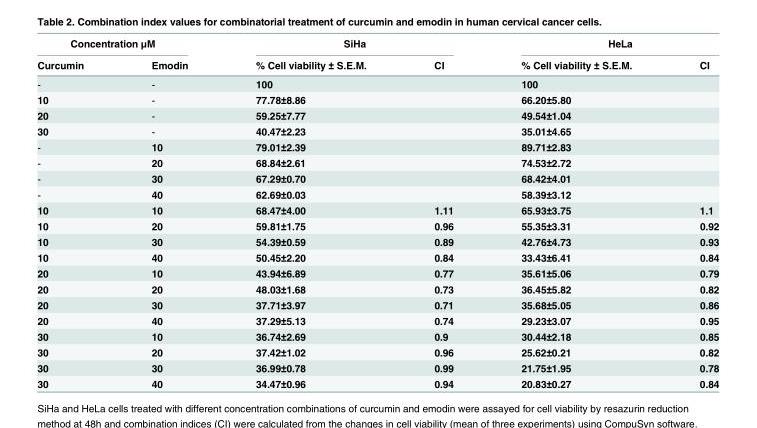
<table><thead><tr><td colspan="2">Concentration μM</td><td colspan="2">SiHa</td><td colspan="2">HeLa</td></tr><tr><td>Curcumin</td><td>Emodin</td><td>% Cell viability ± S.E.M.</td><td>CI</td><td>% Cell viability ± S.E.M.</td><td>CI</td></tr></thead><tbody><tr><td>-</td><td>-</td><td>100</td><td></td><td>100</td><td></td></tr><tr><td>10</td><td>-</td><td>77.78±8.86</td><td></td><td>66.20±5.80</td><td></td></tr><tr><td>20</td><td>-</td><td>59.25±7.77</td><td></td><td>49.54±1.04</td><td></td></tr><tr><td>30</td><td>-</td><td>40.47±2.23</td><td></td><td>35.01±4.65</td><td></td></tr><tr><td>-</td><td>10</td><td>79.01±2.39</td><td></td><td>89.71±2.83</td><td></td></tr><tr><td>-</td><td>20</td><td>68.84±2.61</td><td></td><td>74.53±2.72</td><td></td></tr><tr><td>-</td><td>30</td><td>67.29±0.70</td><td></td><td>68.42±4.01</td><td></td></tr><tr><td>-</td><td>40</td><td>62.69±0.03</td><td></td><td>58.39±3.12</td><td></td></tr><tr><td>10</td><td>10</td><td>68.47±4.00</td><td>1.11</td><td>65.93±3.75</td><td>1.1</td></tr><tr><td>10</td><td>20</td><td>59.81±1.75</td><td>0.96</td><td>55.35±3.31</td><td>0.92</td></tr><tr><td>10</td><td>30</td><td>54.39±0.59</td><td>0.89</td><td>42.76±4.73</td><td>0.93</td></tr><tr><td>10</td><td>40</td><td>50.45±2.20</td><td>0.84</td><td>33.43±6.41</td><td>0.84</td></tr><tr><td>20</td><td>10</td><td>43.94±6.89</td><td>0.77</td><td>35.61±5.06</td><td>0.79</td></tr><tr><td>20</td><td>20</td><td>48.03±1.68</td><td>0.73</td><td>36.45±5.82</td><td>0.82</td></tr><tr><td>20</td><td>30</td><td>37.71±3.97</td><td>0.71</td><td>35.68±5.05</td><td>0.86</td></tr><tr><td>20</td><td>40</td><td>37.29±5.13</td><td>0.74</td><td>29.23±3.07</td><td>0.95</td></tr><tr><td>30</td><td>10</td><td>36.74±2.69</td><td>0.9</td><td>30.44±2.18</td><td>0.85</td></tr><tr><td>30</td><td>20</td><td>37.42±1.02</td><td>0.96</td><td>25.62±0.21</td><td>0.82</td></tr><tr><td>30</td><td>30</td><td>36.99±0.78</td><td>0.99</td><td>21.75±1.95</td><td>0.78</td></tr><tr><td>30</td><td>40</td><td>34.47±0.96</td><td>0.94</td><td>20.83±0.27</td><td>0.84</td></tr></tbody></table>